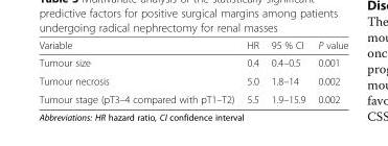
<table><thead><tr><td>Variable</td><td>HR</td><td>95 % CI</td><td>P value</td></tr></thead><tbody><tr><td>Tumour size</td><td>0.4</td><td>0.4–0.5</td><td>0.001</td></tr><tr><td>Tumour necrosis</td><td>5.0</td><td>1.8–14</td><td>0.002</td></tr><tr><td>Tumour stage (pT3–4 compared with pT1–T2)</td><td>5.5</td><td>1.9–15.9</td><td>0.002</td></tr></tbody></table>